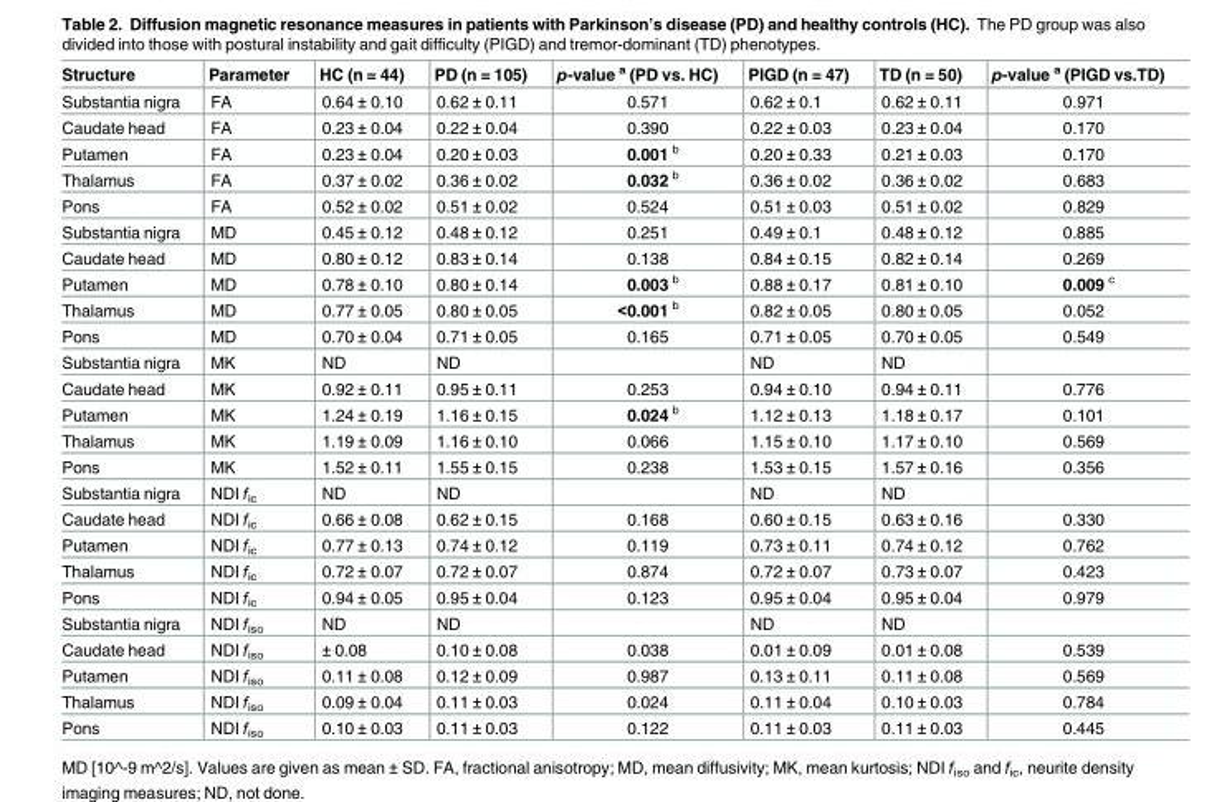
<table><thead><tr><td>Structure</td><td>Parameter</td><td>HC (n = 44)</td><td>PD (n = 105)</td><td>p-value <sup>a</sup> (PD vs. HC)</td><td>PIGD (n = 47)</td><td>TD (n = 50)</td><td>p-value <sup>a</sup> (PIGD vs.TD)</td></tr></thead><tbody><tr><td>Substantia nigra</td><td>FA</td><td>0.64 ± 0.10</td><td>0.62 ± 0.11</td><td>0.571</td><td>0.62 ± 0.1</td><td>0.62 ± 0.11</td><td>0.971</td></tr><tr><td>Caudate head</td><td>FA</td><td>0.23 ± 0.04</td><td>0.22 ± 0.04</td><td>0.390</td><td>0.22 ± 0.03</td><td>0.23 ± 0.04</td><td>0.170</td></tr><tr><td>Putamen</td><td>FA</td><td>0.23 ± 0.04</td><td>0.20 ± 0.03</td><td>0.001 <sup>b</sup></td><td>0.20 ± 0.33</td><td>0.21 ± 0.03</td><td>0.170</td></tr><tr><td>Thalamus</td><td>FA</td><td>0.37 ± 0.02</td><td>0.36 ± 0.02</td><td>0.032 <sup>b</sup></td><td>0.36 ± 0.02</td><td>0.36 ± 0.02</td><td>0.683</td></tr><tr><td>Pons</td><td>FA</td><td>0.52 ± 0.02</td><td>0.51 ± 0.02</td><td>0.524</td><td>0.51 ± 0.03</td><td>0.51 ± 0.02</td><td>0.829</td></tr><tr><td>Substantia nigra</td><td>MD</td><td>0.45 ± 0.12</td><td>0.48 ± 0.12</td><td>0.251</td><td>0.49 ± 0.1</td><td>0.48 ± 0.12</td><td>0.885</td></tr><tr><td>Caudate head</td><td>MD</td><td>0.80 ± 0.12</td><td>0.83 ± 0.14</td><td>0.138</td><td>0.84 ± 0.15</td><td>0.82 ± 0.14</td><td>0.269</td></tr><tr><td>Putamen</td><td>MD</td><td>0.78 ± 0.10</td><td>0.80 ± 0.14</td><td>0.003 <sup>b</sup></td><td>0.88 ± 0.17</td><td>0.81 ± 0.10</td><td>0.009 <sup>c</sup></td></tr><tr><td>Thalamus</td><td>MD</td><td>0.77 ± 0.05</td><td>0.80 ± 0.05</td><td>&lt;0.001 <sup>b</sup></td><td>0.82 ± 0.05</td><td>0.80 ± 0.05</td><td>0.052</td></tr><tr><td>Pons</td><td>MD</td><td>0.70 ± 0.04</td><td>0.71 ± 0.05</td><td>0.165</td><td>0.71 ± 0.05</td><td>0.70 ± 0.05</td><td>0.549</td></tr><tr><td>Substantia nigra</td><td>MK</td><td>ND</td><td>ND</td><td></td><td>ND</td><td>ND</td><td></td></tr><tr><td>Caudate head</td><td>MK</td><td>0.92 ± 0.11</td><td>0.95 ± 0.11</td><td>0.253</td><td>0.94 ± 0.10</td><td>0.94 ± 0.11</td><td>0.776</td></tr><tr><td>Putamen</td><td>MK</td><td>1.24 ± 0.19</td><td>1.16 ± 0.15</td><td>0.024 <sup>b</sup></td><td>1.12 ± 0.13</td><td>1.18 ± 0.17</td><td>0.101</td></tr><tr><td>Thalamus</td><td>MK</td><td>1.19 ± 0.09</td><td>1.16 ± 0.10</td><td>0.066</td><td>1.15 ± 0.10</td><td>1.17 ± 0.10</td><td>0.569</td></tr><tr><td>Pons</td><td>MK</td><td>1.52 ± 0.11</td><td>1.55 ± 0.15</td><td>0.238</td><td>1.53 ± 0.15</td><td>1.57 ± 0.16</td><td>0.356</td></tr><tr><td>Substantia nigra</td><td>NDI f<sub>ic</sub></td><td>ND</td><td>ND</td><td></td><td>ND</td><td>ND</td><td></td></tr><tr><td>Caudate head</td><td>NDI f<sub>ic</sub></td><td>0.66 ± 0.08</td><td>0.62 ± 0.15</td><td>0.168</td><td>0.60 ± 0.15</td><td>0.63 ± 0.16</td><td>0.330</td></tr><tr><td>Putamen</td><td>NDI f<sub>ic</sub></td><td>0.77 ± 0.13</td><td>0.74 ± 0.12</td><td>0.119</td><td>0.73 ± 0.11</td><td>0.74 ± 0.12</td><td>0.762</td></tr><tr><td>Thalamus</td><td>NDI f<sub>ic</sub></td><td>0.72 ± 0.07</td><td>0.72 ± 0.07</td><td>0.874</td><td>0.72 ± 0.07</td><td>0.73 ± 0.07</td><td>0.423</td></tr><tr><td>Pons</td><td>NDI f<sub>ic</sub></td><td>0.94 ± 0.05</td><td>0.95 ± 0.04</td><td>0.123</td><td>0.95 ± 0.04</td><td>0.95 ± 0.04</td><td>0.979</td></tr><tr><td>Substantia nigra</td><td>NDI f<sub>iso</sub></td><td>ND</td><td>ND</td><td></td><td>ND</td><td>ND</td><td></td></tr><tr><td>Caudate head</td><td>NDI f<sub>iso</sub></td><td>± 0.08</td><td>0.10 ± 0.08</td><td>0.038</td><td>0.01 ± 0.09</td><td>0.01 ± 0.08</td><td>0.539</td></tr><tr><td>Putamen</td><td>NDI f<sub>iso</sub></td><td>0.11 ± 0.08</td><td>0.12 ± 0.09</td><td>0.987</td><td>0.13 ± 0.11</td><td>0.11 ± 0.08</td><td>0.569</td></tr><tr><td>Thalamus</td><td>NDI f<sub>iso</sub></td><td>0.09 ± 0.04</td><td>0.11 ± 0.03</td><td>0.024</td><td>0.11 ± 0.04</td><td>0.10 ± 0.03</td><td>0.784</td></tr><tr><td>Pons</td><td>NDI f<sub>iso</sub></td><td>0.10 ± 0.03</td><td>0.11 ± 0.03</td><td>0.122</td><td>0.11 ± 0.03</td><td>0.11 ± 0.03</td><td>0.445</td></tr></tbody></table>